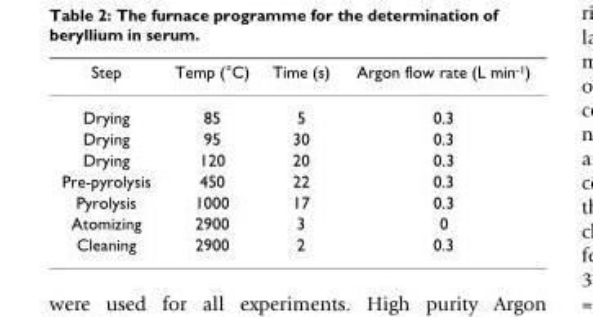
<table><thead><tr><td>Step</td><td>Temp (°C)</td><td>Time (s)</td><td>Argon flow rate (L min<sup>-1</sup>)</td></tr></thead><tbody><tr><td>Drying</td><td>85</td><td>5</td><td>0.3</td></tr><tr><td>Drying</td><td>95</td><td>30</td><td>0.3</td></tr><tr><td>Drying</td><td>120</td><td>20</td><td>0.3</td></tr><tr><td>Pre-pyrolysis</td><td>450</td><td>22</td><td>0.3</td></tr><tr><td>Pyrolysis</td><td>1000</td><td>17</td><td>0.3</td></tr><tr><td>Atomizing</td><td>2900</td><td>3</td><td>0</td></tr><tr><td>Cleaning</td><td>2900</td><td>2</td><td>0.3</td></tr></tbody></table>